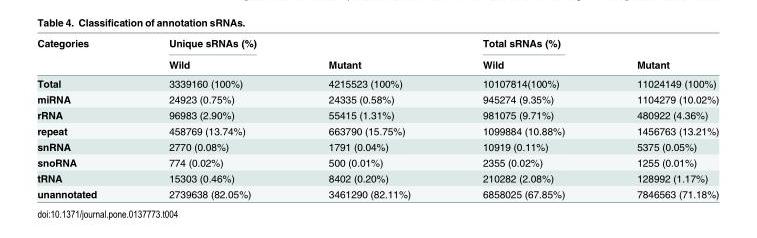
<table><thead><tr><td rowspan="2">Categories</td><td rowspan="2">Unique sRNAs (%) Wild</td><td rowspan="2">Mutant</td><td rowspan="2">Total sRNAs (%) Wild</td><td rowspan="2">Mutant</td></tr><tr></tr></thead><tbody><tr><td>Total</td><td>3339160 (100%)</td><td>4215523 (100%)</td><td>10107814(100%)</td><td>11024149 (100%)</td></tr><tr><td>miRNA</td><td>24923 (0.75%)</td><td>24335 (0.58%)</td><td>945274 (9.35%)</td><td>1104279 (10.02%)</td></tr><tr><td>rRNA</td><td>96983 (2.90%)</td><td>55415 (1.31%)</td><td>981075 (9.71%)</td><td>480922 (4.36%)</td></tr><tr><td>repeat</td><td>458769 (13.74%)</td><td>663790 (15.75%)</td><td>1099884 (10.88%)</td><td>1456763 (13.21%)</td></tr><tr><td>snRNA</td><td>2770 (0.08%)</td><td>1791 (0.04%)</td><td>10919 (0.11%)</td><td>5375 (0.05%)</td></tr><tr><td>snoRNA</td><td>774 (0.02%)</td><td>500 (0.01%)</td><td>2355 (0.02%)</td><td>1255 (0.01%)</td></tr><tr><td>tRNA</td><td>15303 (0.46%)</td><td>8402 (0.20%)</td><td>210282 (2.08%)</td><td>128992 (1.17%)</td></tr><tr><td>unannotated</td><td>2739638 (82.05%)</td><td>3461290 (82.11%)</td><td>6858025 (67.85%)</td><td>7846563 (71.18%)</td></tr></tbody></table>